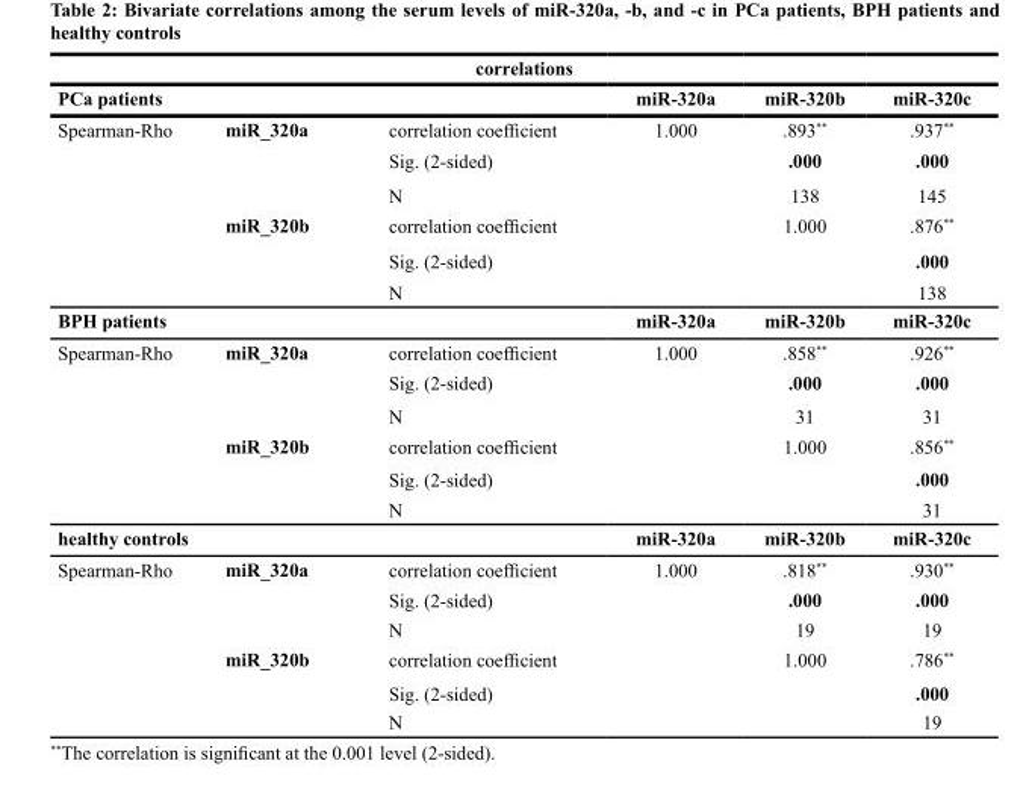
<table><thead><tr><td colspan="6">correlations</td></tr><tr><td>PCa patients</td><td></td><td></td><td>miR-320a</td><td>miR-320b</td><td>miR-320c</td></tr></thead><tbody><tr><td rowspan="6">Spearman-Rho</td><td rowspan="3">miR_320a</td><td>correlation coefficient</td><td>1.000</td><td>.893**</td><td>.937**</td></tr><tr><td>Sig. (2-sided)</td><td></td><td>.000</td><td>.000</td></tr><tr><td>N</td><td></td><td>138</td><td>145</td></tr><tr><td rowspan="3">miR_320b</td><td>correlation coefficient</td><td></td><td>1.000</td><td>.876**</td></tr><tr><td>Sig. (2-sided)</td><td></td><td></td><td>.000</td></tr><tr><td>N</td><td></td><td></td><td>138</td></tr><tr><td>BPH patients</td><td></td><td></td><td>miR-320a</td><td>miR-320b</td><td>miR-320c</td></tr><tr><td rowspan="6">Spearman-Rho</td><td rowspan="3">miR_320a</td><td>correlation coefficient</td><td>1.000</td><td>.858**</td><td>.926**</td></tr><tr><td>Sig. (2-sided)</td><td></td><td>.000</td><td>.000</td></tr><tr><td>N</td><td></td><td>31</td><td>31</td></tr><tr><td rowspan="3">miR_320b</td><td>correlation coefficient</td><td></td><td>1.000</td><td>.856**</td></tr><tr><td>Sig. (2-sided)</td><td></td><td></td><td>.000</td></tr><tr><td>N</td><td></td><td></td><td>31</td></tr><tr><td>healthy controls</td><td></td><td></td><td>miR-320a</td><td>miR-320b</td><td>miR-320c</td></tr><tr><td rowspan="6">Spearman-Rho</td><td rowspan="3">miR_320a</td><td>correlation coefficient</td><td>1.000</td><td>.818**</td><td>.930**</td></tr><tr><td>Sig. (2-sided)</td><td></td><td>.000</td><td>.000</td></tr><tr><td>N</td><td></td><td>19</td><td>19</td></tr><tr><td rowspan="3">miR_320b</td><td>correlation coefficient</td><td></td><td>1.000</td><td>.786**</td></tr><tr><td>Sig. (2-sided)</td><td></td><td></td><td>.000</td></tr><tr><td>N</td><td></td><td></td><td>19</td></tr></tbody></table>